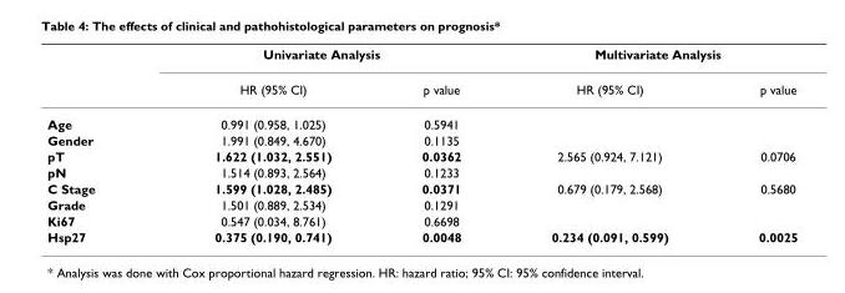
<table><thead><tr><td rowspan="2"></td><td colspan="2">Univariate Analysis</td><td colspan="2">Multivariate Analysis</td></tr><tr><td>HR (95% CI)</td><td>p value</td><td>HR (95% CI)</td><td>p value</td></tr></thead><tbody><tr><td>Age</td><td>0.991 (0.958, 1.025)</td><td>0.5941</td><td></td><td></td></tr><tr><td>Gender</td><td>1.991 (0.849, 4.670)</td><td>0.1135</td><td></td><td></td></tr><tr><td>pT</td><td>1.622 (1.032, 2.551)</td><td>0.0362</td><td>2.565 (0.924, 7.121)</td><td>0.0706</td></tr><tr><td>pN</td><td>1.514 (0.893, 2.564)</td><td>0.1233</td><td></td><td></td></tr><tr><td>C Stage</td><td>1.599 (1.028, 2.485)</td><td>0.0371</td><td>0.679 (0.179, 2.568)</td><td>0.5680</td></tr><tr><td>Grade</td><td>1.501 (0.889, 2.534)</td><td>0.1291</td><td></td><td></td></tr><tr><td>Ki67</td><td>0.547 (0.034, 8.761)</td><td>0.6698</td><td></td><td></td></tr><tr><td>Hsp27</td><td>0.375 (0.190, 0.741)</td><td>0.0048</td><td>0.234 (0.091, 0.599)</td><td>0.0025</td></tr></tbody></table>